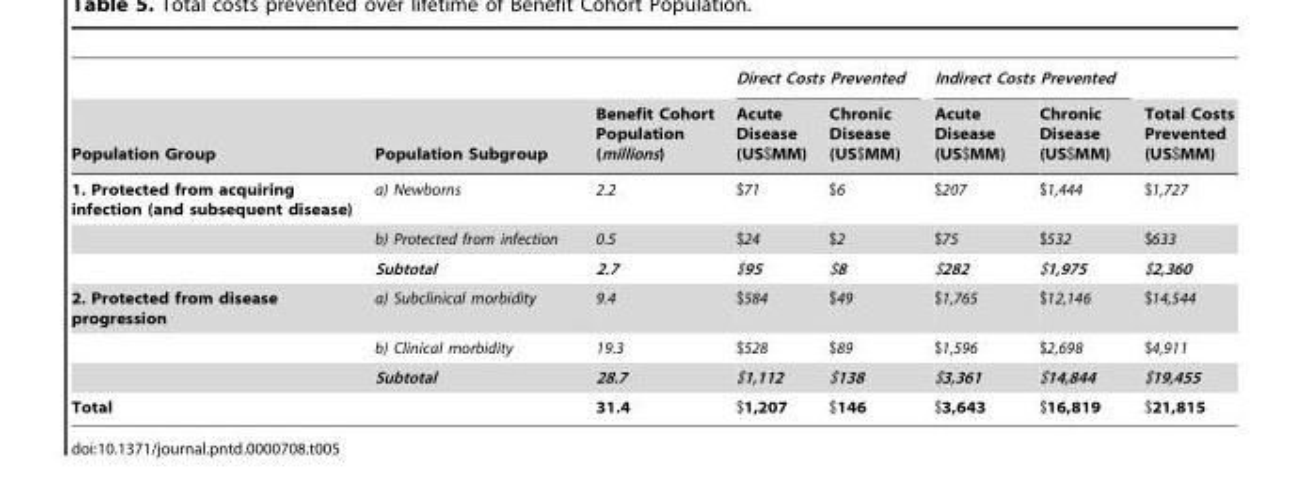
<table><thead><tr><td rowspan="2">Population Group</td><td rowspan="2">Population Subgroup</td><td rowspan="2">Benefit Cohort Population (millions)</td><td colspan="2">Direct Costs Prevented</td><td colspan="2">Indirect Costs Prevented</td><td rowspan="2">Total Costs Prevented (US$MM)</td></tr><tr><td>Acute Disease (US$MM)</td><td>Chronic Disease (US$MM)</td><td>Acute Disease (US$MM)</td><td>Chronic Disease (US$MM)</td></tr></thead><tbody><tr><td rowspan="3">1. Protected from acquiring infection (and subsequent disease)</td><td>a) Newborns</td><td>2.2</td><td>$71</td><td>$6</td><td>$207</td><td>$1,444</td><td>$1,727</td></tr><tr><td>b) Protected from infection</td><td>0.5</td><td>$24</td><td>$2</td><td>$75</td><td>$532</td><td>$633</td></tr><tr><td>Subtotal</td><td>2.7</td><td>$95</td><td>$8</td><td>$282</td><td>$1,975</td><td>$2,360</td></tr><tr><td rowspan="3">2. Protected from disease progression</td><td>a) Subclinical morbidity</td><td>9.4</td><td>$584</td><td>$49</td><td>$1,765</td><td>$12,146</td><td>$14,544</td></tr><tr><td>b) Clinical morbidity</td><td>19.3</td><td>$528</td><td>$89</td><td>$1,596</td><td>$2,698</td><td>$4,911</td></tr><tr><td>Subtotal</td><td>28.7</td><td>$1,112</td><td>$138</td><td>$3,361</td><td>$14,844</td><td>$19,455</td></tr><tr><td>Total</td><td></td><td>31.4</td><td>$1,207</td><td>$146</td><td>$3,643</td><td>$16,819</td><td>$21,815</td></tr></tbody></table>